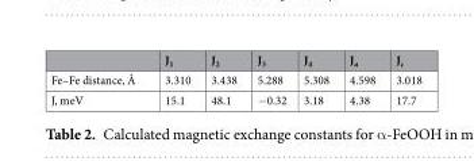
<table><thead><tr><td></td><td>J<sub>1</sub></td><td>J<sub>2</sub></td><td>J<sub>3</sub></td><td>J<sub>4</sub></td><td>J<sub>a</sub></td><td>J<sub>c</sub></td></tr></thead><tbody><tr><td>Fe–Fe distance, Å</td><td>3.310</td><td>3.438</td><td>5.288</td><td>5.308</td><td>4.598</td><td>3.018</td></tr><tr><td>J, meV</td><td>15.1</td><td>48.1</td><td>−0.32</td><td>3.18</td><td>4.38</td><td>17.7</td></tr></tbody></table>